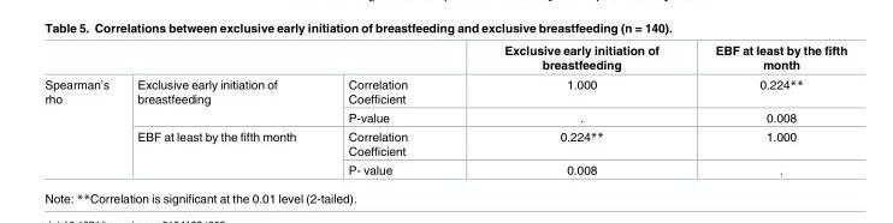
<table><thead><tr><td></td><td></td><td></td><td>Exclusive early initiation of breastfeeding</td><td>EBF at least by the fifth month</td></tr></thead><tbody><tr><td rowspan="4">Spearman’s rho</td><td rowspan="2">Exclusive early initiation of breastfeeding</td><td>Correlation Coefficient</td><td>1.000</td><td>0.224**</td></tr><tr><td>P-value</td><td>.</td><td>0.008</td></tr><tr><td rowspan="2">EBF at least by the fifth month</td><td>Correlation Coefficient</td><td>0.224**</td><td>1.000</td></tr><tr><td>P- value</td><td>0.008</td><td>.</td></tr></tbody></table>